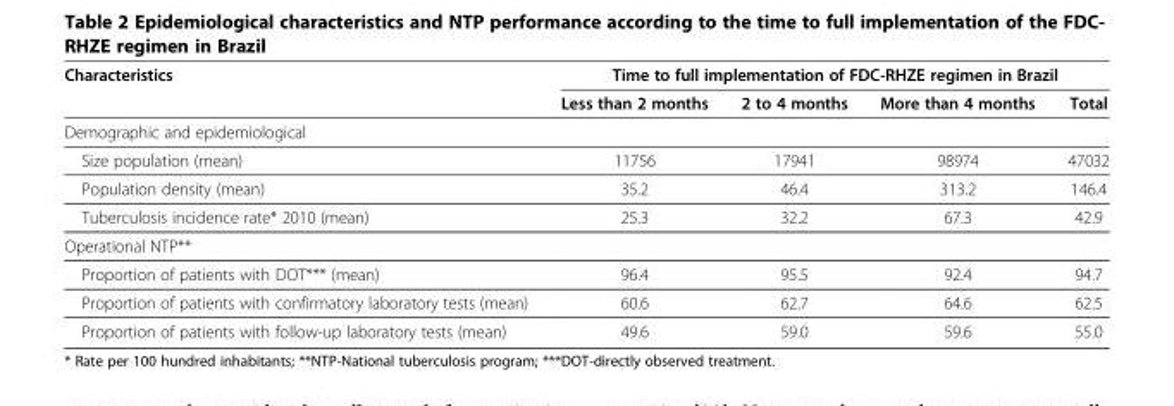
<table><thead><tr><td rowspan="2">Characteristics</td><td colspan="4">Time to full implementation of FDC-RHZE regimen in Brazil</td></tr><tr><td>Less than 2 months</td><td>2 to 4 months</td><td>More than 4 months</td><td>Total</td></tr></thead><tbody><tr><td colspan="5">Demographic and epidemiological</td></tr><tr><td>Size population (mean)</td><td>11756</td><td>17941</td><td>98974</td><td>47032</td></tr><tr><td>Population density (mean)</td><td>35.2</td><td>46.4</td><td>313.2</td><td>146.4</td></tr><tr><td>Tuberculosis incidence rate* 2010 (mean)</td><td>25.3</td><td>32.2</td><td>67.3</td><td>42.9</td></tr><tr><td colspan="5">Operational NTP**</td></tr><tr><td>Proportion of patients with DOT*** (mean)</td><td>96.4</td><td>95.5</td><td>92.4</td><td>94.7</td></tr><tr><td>Proportion of patients with confirmatory laboratory tests (mean)</td><td>60.6</td><td>62.7</td><td>64.6</td><td>62.5</td></tr><tr><td>Proportion of patients with follow-up laboratory tests (mean)</td><td>49.6</td><td>59.0</td><td>59.6</td><td>55.0</td></tr></tbody></table>